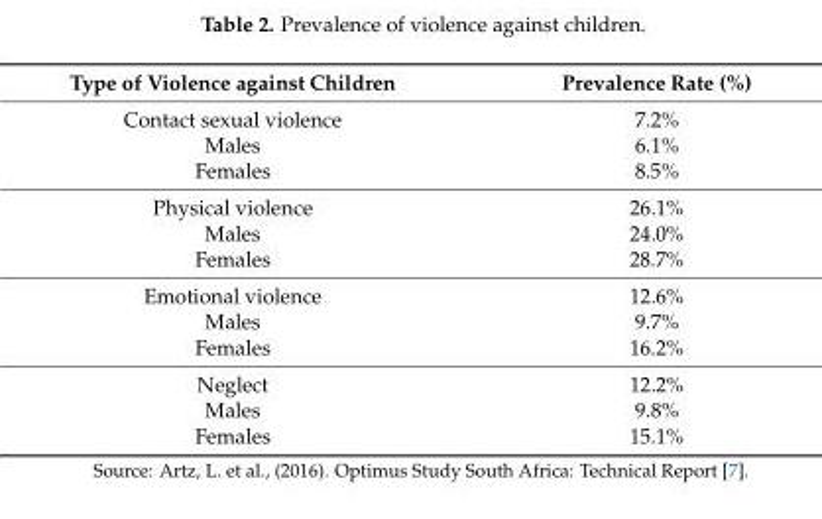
<table><thead><tr><td>Type of Violence against Children</td><td>Prevalence Rate (%)</td></tr></thead><tbody><tr><td>Contact sexual violence</td><td>7.2%</td></tr><tr><td>Males</td><td>6.1%</td></tr><tr><td>Females</td><td>8.5%</td></tr><tr><td>Physical violence</td><td>26.1%</td></tr><tr><td>Males</td><td>24.0%</td></tr><tr><td>Females</td><td>28.7%</td></tr><tr><td>Emotional violence</td><td>12.6%</td></tr><tr><td>Males</td><td>9.7%</td></tr><tr><td>Females</td><td>16.2%</td></tr><tr><td>Neglect</td><td>12.2%</td></tr><tr><td>Males</td><td>9.8%</td></tr><tr><td>Females</td><td>15.1%</td></tr></tbody></table>